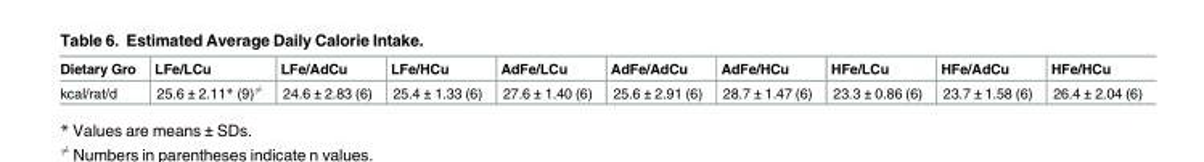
<table><thead><tr><td>Dietary Gro</td><td>LFe/LCu</td><td>LFe/AdCu</td><td>LFe/HCu</td><td>AdFe/LCu</td><td>AdFe/AdCu</td><td>AdFe/HCu</td><td>HFe/LCu</td><td>HFe/AdCu</td><td>HFe/HCu</td></tr></thead><tbody><tr><td>kcal/rat/d</td><td>25.6 ± 2.11* (9)6¼</td><td>24.6 ± 2.83 (6)</td><td>25.4 ± 1.33 (6)</td><td>27.6 ± 1.40 (6)</td><td>25.6 ± 2.91 (6)</td><td>28.7 ± 1.47 (6)</td><td>23.3 ± 0.86 (6)</td><td>23.7 ± 1.58 (6)</td><td>26.4 ± 2.04 (6)</td></tr></tbody></table>